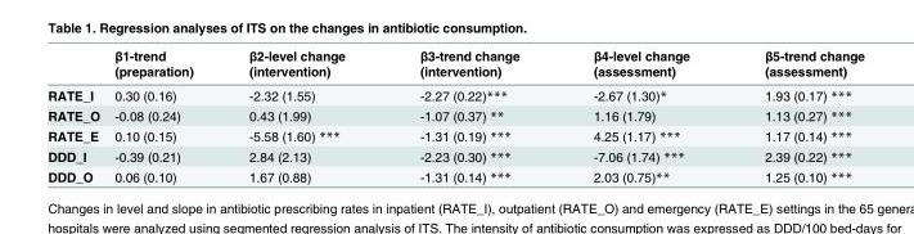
<table><thead><tr><td></td><td>β1-trend (preparation)</td><td>β2-level change (intervention)</td><td>β3-trend change (intervention)</td><td>β4-level change (assessment)</td><td>β5-trend change (assessment)</td></tr></thead><tbody><tr><td>RATE_I</td><td>0.30 (0.16)</td><td>-2.32 (1.55)</td><td>-2.27 (0.22)***</td><td>-2.67 (1.30)*</td><td>1.93 (0.17) ***</td></tr><tr><td>RATE_O</td><td>-0.08 (0.24)</td><td>0.43 (1.99)</td><td>-1.07 (0.37) **</td><td>1.16 (1.79)</td><td>1.13 (0.27) ***</td></tr><tr><td>RATE_E</td><td>0.10 (0.15)</td><td>-5.58 (1.60) ***</td><td>-1.31 (0.19) ***</td><td>4.25 (1.17) ***</td><td>1.17 (0.14) ***</td></tr><tr><td>DDD_I</td><td>-0.39 (0.21)</td><td>2.84 (2.13)</td><td>-2.23 (0.30) ***</td><td>-7.06 (1.74) ***</td><td>2.39 (0.22) ***</td></tr><tr><td>DDD_O</td><td>0.06 (0.10)</td><td>1.67 (0.88)</td><td>-1.31 (0.14) ***</td><td>2.03 (0.75)**</td><td>1.25 (0.10) ***</td></tr></tbody></table>